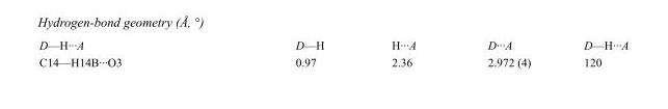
<table><tbody><tr><td>D—H···A</td><td>D—H</td><td>H···A</td><td>D···A</td><td>D—H···A</td></tr><tr><td>C14—H14B···O3</td><td>0.97</td><td>2.36</td><td>2.972 (4)</td><td>120</td></tr></tbody></table>